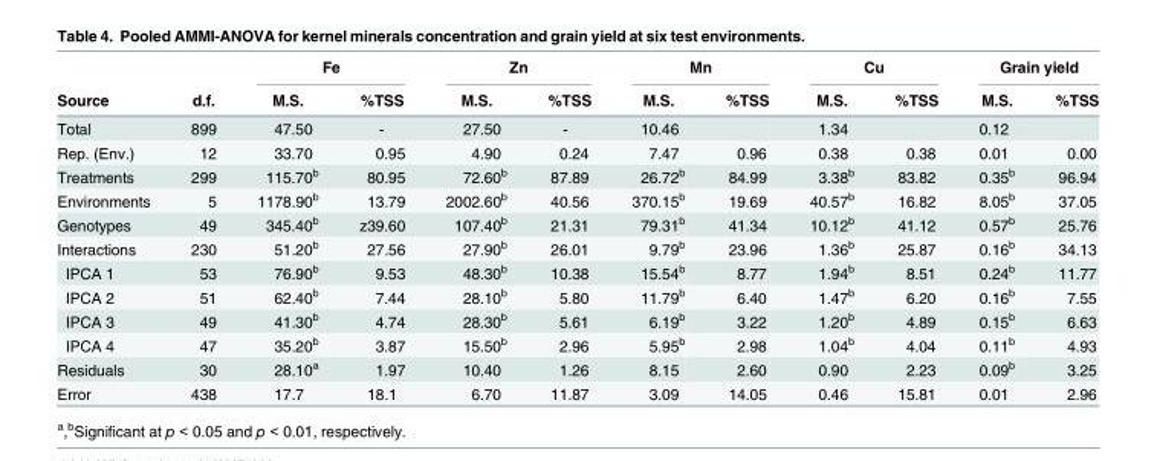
<table><thead><tr><td rowspan="2">Source</td><td rowspan="2">d.f.</td><td colspan="2">Fe</td><td colspan="2">Zn</td><td colspan="2">Mn</td><td colspan="2">Cu</td><td colspan="2">Grain yield</td></tr><tr><td>M.S.</td><td>%TSS</td><td>M.S.</td><td>%TSS</td><td>M.S.</td><td>%TSS</td><td>M.S.</td><td>%TSS</td><td>M.S.</td><td>%TSS</td></tr></thead><tbody><tr><td>Total</td><td>899</td><td>47.50</td><td>-</td><td>27.50</td><td>-</td><td>10.46</td><td></td><td>1.34</td><td></td><td>0.12</td><td></td></tr><tr><td>Rep. (Env.)</td><td>12</td><td>33.70</td><td>0.95</td><td>4.90</td><td>0.24</td><td>7.47</td><td>0.96</td><td>0.38</td><td>0.38</td><td>0.01</td><td>0.00</td></tr><tr><td>Treatments</td><td>299</td><td>115.70<sup>b</sup></td><td>80.95</td><td>72.60<sup>b</sup></td><td>87.89</td><td>26.72<sup>b</sup></td><td>84.99</td><td>3.38<sup>b</sup></td><td>83.82</td><td>0.35<sup>b</sup></td><td>96.94</td></tr><tr><td>Environments</td><td>5</td><td>1178.90<sup>b</sup></td><td>13.79</td><td>2002.60<sup>b</sup></td><td>40.56</td><td>370.15<sup>b</sup></td><td>19.69</td><td>40.57<sup>b</sup></td><td>16.82</td><td>8.05<sup>b</sup></td><td>37.05</td></tr><tr><td>Genotypes</td><td>49</td><td>345.40<sup>b</sup></td><td>z39.60</td><td>107.40<sup>b</sup></td><td>21.31</td><td>79.31<sup>b</sup></td><td>41.34</td><td>10.12<sup>b</sup></td><td>41.12</td><td>0.57<sup>b</sup></td><td>25.76</td></tr><tr><td>Interactions</td><td>230</td><td>51.20<sup>b</sup></td><td>27.56</td><td>27.90<sup>b</sup></td><td>26.01</td><td>9.79<sup>b</sup></td><td>23.96</td><td>1.36<sup>b</sup></td><td>25.87</td><td>0.16<sup>b</sup></td><td>34.13</td></tr><tr><td>IPCA 1</td><td>53</td><td>76.90<sup>b</sup></td><td>9.53</td><td>48.30<sup>b</sup></td><td>10.38</td><td>15.54<sup>b</sup></td><td>8.77</td><td>1.94<sup>b</sup></td><td>8.51</td><td>0.24<sup>b</sup></td><td>11.77</td></tr><tr><td>IPCA 2</td><td>51</td><td>62.40<sup>b</sup></td><td>7.44</td><td>28.10<sup>b</sup></td><td>5.80</td><td>11.79<sup>b</sup></td><td>6.40</td><td>1.47<sup>b</sup></td><td>6.20</td><td>0.16<sup>b</sup></td><td>7.55</td></tr><tr><td>IPCA 3</td><td>49</td><td>41.30<sup>b</sup></td><td>4.74</td><td>28.30<sup>b</sup></td><td>5.61</td><td>6.19<sup>b</sup></td><td>3.22</td><td>1.20<sup>b</sup></td><td>4.89</td><td>0.15<sup>b</sup></td><td>6.63</td></tr><tr><td>IPCA 4</td><td>47</td><td>35.20<sup>b</sup></td><td>3.87</td><td>15.50<sup>b</sup></td><td>2.96</td><td>5.95<sup>b</sup></td><td>2.98</td><td>1.04<sup>b</sup></td><td>4.04</td><td>0.11<sup>b</sup></td><td>4.93</td></tr><tr><td>Residuals</td><td>30</td><td>28.10<sup>a</sup></td><td>1.97</td><td>10.40</td><td>1.26</td><td>8.15</td><td>2.60</td><td>0.90</td><td>2.23</td><td>0.09<sup>b</sup></td><td>3.25</td></tr><tr><td>Error</td><td>438</td><td>17.7</td><td>18.1</td><td>6.70</td><td>11.87</td><td>3.09</td><td>14.05</td><td>0.46</td><td>15.81</td><td>0.01</td><td>2.96</td></tr></tbody></table>